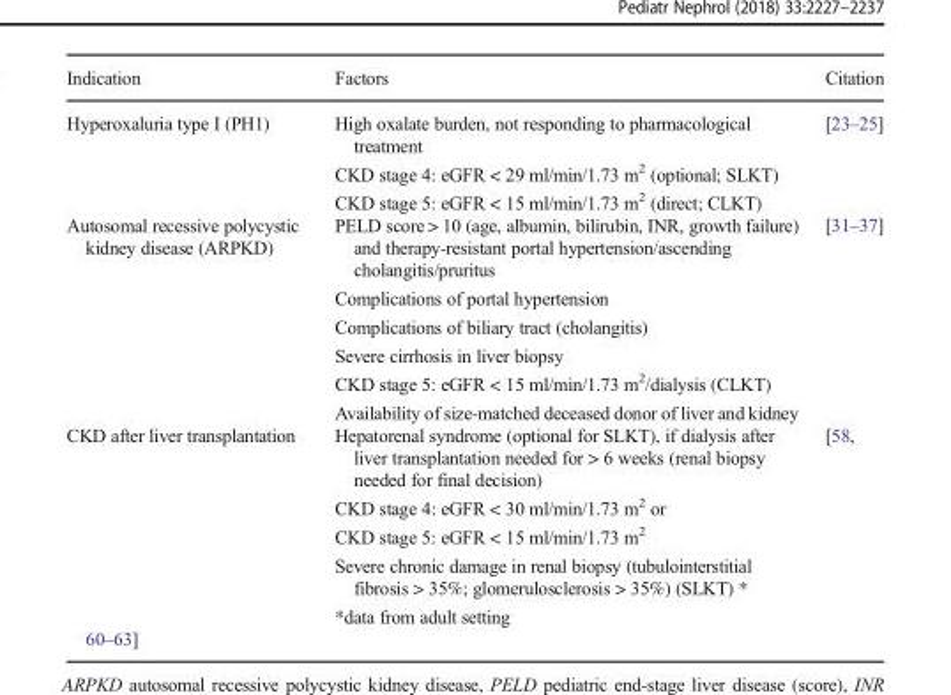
<table><thead><tr><td>Indication</td><td>Factors</td><td>Citation</td></tr></thead><tbody><tr><td>Hyperoxaluria type I (PH1)</td><td>High oxalate burden, not responding to pharmacological treatment CKD stage 4: eGFR &lt; 29 ml/min/1.73 m<sup>2</sup> (optional; SLKT) CKD stage 5: eGFR &lt; 15 ml/min/1.73 m<sup>2</sup> (direct; CLKT)</td><td>[23–25]</td></tr><tr><td>Autosomal recessive polycystic kidney disease (ARPKD)</td><td>PELD score &gt; 10 (age, albumin, bilirubin, INR, growth failure) and therapy-resistant portal hypertension/ascending cholangitis/pruritus Complications of portal hypertension Complications of biliary tract (cholangitis) Severe cirrhosis in liver biopsy CKD stage 5: eGFR &lt; 15 ml/min/1.73 m<sup>2</sup>/dialysis (CLKT) Availability of size-matched deceased donor of liver and kidney</td><td>[31–37]</td></tr><tr><td>CKD after liver transplantation</td><td>Hepatorenal syndrome (optional for SLKT), if dialysis after liver transplantation needed for &gt; 6 weeks (renal biopsy needed for final decision) CKD stage 4: eGFR &lt; 30 ml/min/1.73 m<sup>2</sup> or CKD stage 5: eGFR &lt; 15 ml/min/1.73 m<sup>2</sup> Severe chronic damage in renal biopsy (tubulointerstitial fibrosis &gt; 35%; glomerulosclerosis &gt; 35%) (SLKT) * *data from adult setting</td><td>[58,</td></tr></tbody></table>